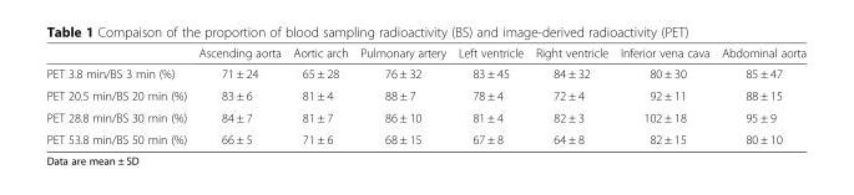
<table><thead><tr><td></td><td>Ascending aorta</td><td>Aortic arch</td><td>Pulmonary artery</td><td>Left ventricle</td><td>Right ventricle</td><td>Inferior vena cava</td><td>Abdominal aorta</td></tr></thead><tbody><tr><td>PET 3.8 min/BS 3 min (%)</td><td>71 ± 24</td><td>65 ± 28</td><td>76 ± 32</td><td>83 ± 45</td><td>84 ± 32</td><td>80 ± 30</td><td>85 ± 47</td></tr><tr><td>PET 20.5 min/BS 20 min (%)</td><td>83 ± 6</td><td>81 ± 4</td><td>88 ± 7</td><td>78 ± 4</td><td>72 ± 4</td><td>92 ± 11</td><td>88 ± 15</td></tr><tr><td>PET 28.8 min/BS 30 min (%)</td><td>84 ± 7</td><td>81 ± 7</td><td>86 ± 10</td><td>81 ± 4</td><td>82 ± 3</td><td>102 ± 18</td><td>95 ± 9</td></tr><tr><td>PET 53.8 min/BS 50 min (%)</td><td>66 ± 5</td><td>71 ± 6</td><td>68 ± 15</td><td>67 ± 8</td><td>64 ± 8</td><td>82 ± 15</td><td>80 ± 10</td></tr></tbody></table>